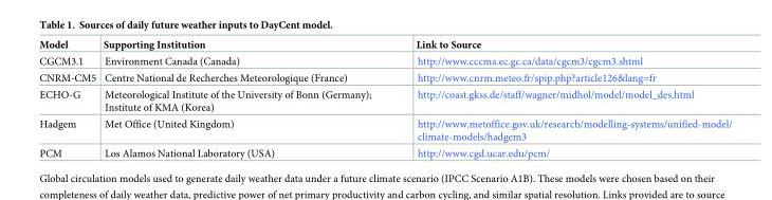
<table><thead><tr><td>Model</td><td>Supporting Institution</td><td>Link to Source</td></tr></thead><tbody><tr><td>CGCM3.1</td><td>Environment Canada (Canada)</td><td>http://www.cccma.ec.gc.ca/data/cgcm3/cgcm3.shtml</td></tr><tr><td>CNRM-CM5</td><td>Centre National de Recherches Meteorologique (France)</td><td>http://www.cnrm.meteo.fr/spip.php?article126&amp;lang=fr</td></tr><tr><td>ECHO-G</td><td>Meteorological Institute of the University of Bonn (Germany); Institute of KMA (Korea)</td><td>http://coast.gkss.de/staff/wagner/midhol/model/model_des.html</td></tr><tr><td>Hadgem</td><td>Met Office (United Kingdom)</td><td>http://www.metoffice.gov.uk/research/modelling-systems/unified-model/ climate-models/hadgem3</td></tr><tr><td>PCM</td><td>Los Alamos National Laboratory (USA)</td><td>http://www.cgd.ucar.edu/pcm/</td></tr></tbody></table>